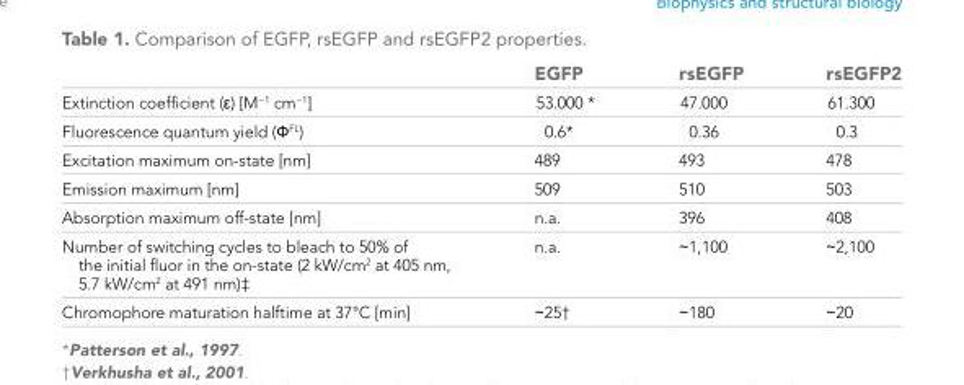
<table><thead><tr><td></td><td>EGFP</td><td>rsEGFP</td><td>rsEGFP2</td></tr></thead><tbody><tr><td>Extinction coefficient (ε) [M<sup>−1</sup> cm<sup>−1</sup>]</td><td>53.000 *</td><td>47.000</td><td>61.300</td></tr><tr><td>Fluorescence quantum yield (Ф<sup>FL</sup>)</td><td>0.6*</td><td>0.36</td><td>0.3</td></tr><tr><td>Excitation maximum on-state [nm]</td><td>489</td><td>493</td><td>478</td></tr><tr><td>Emission maximum [nm]</td><td>509</td><td>510</td><td>503</td></tr><tr><td>Absorption maximum off-state [nm]</td><td>n.a.</td><td>396</td><td>408</td></tr><tr><td>Number of switching cycles to bleach to 50% of the initial fluor in the on-state (2 kW/cm<sup>2</sup> at 405 nm, 5.7 kW/cm<sup>2</sup> at 491 nm)‡</td><td>n.a.</td><td>∼1,100</td><td>∼2,100</td></tr><tr><td>Chromophore maturation halftime at 37°C [min]</td><td>∼25†</td><td>∼180</td><td>∼20</td></tr></tbody></table>